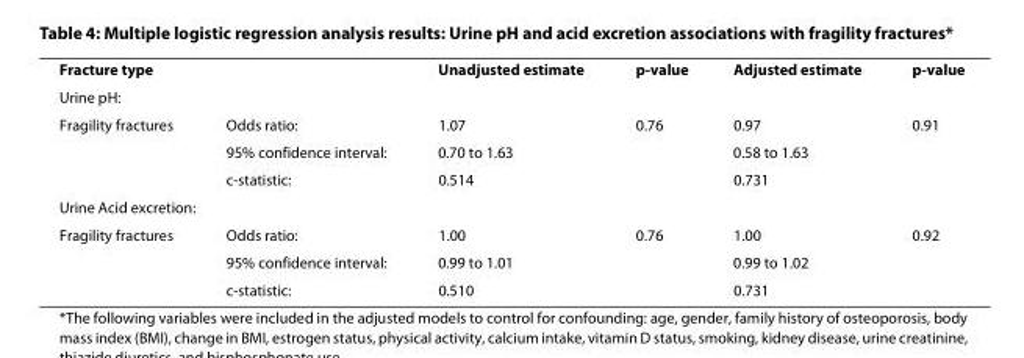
<table><tbody><tr><td>Fracture type</td><td></td><td>Unadjusted estimate</td><td>p-value</td><td>Adjusted estimate</td><td>p-value</td></tr><tr><td colspan="6">Urine pH:</td></tr><tr><td rowspan="3">Fragility fractures</td><td>Odds ratio:</td><td>1.07</td><td>0.76</td><td>0.97</td><td>0.91</td></tr><tr><td>95% confidence interval:</td><td>0.70 to 1.63</td><td></td><td>0.58 to 1.63</td><td></td></tr><tr><td>c-statistic:</td><td>0.514</td><td></td><td>0.731</td><td></td></tr><tr><td colspan="6">Urine Acid excretion:</td></tr><tr><td rowspan="3">Fragility fractures</td><td>Odds ratio:</td><td>1.00</td><td>0.76</td><td>1.00</td><td>0.92</td></tr><tr><td>95% confidence interval:</td><td>0.99 to 1.01</td><td></td><td>0.99 to 1.02</td><td></td></tr><tr><td>c-statistic:</td><td>0.510</td><td></td><td>0.731</td><td></td></tr></tbody></table>